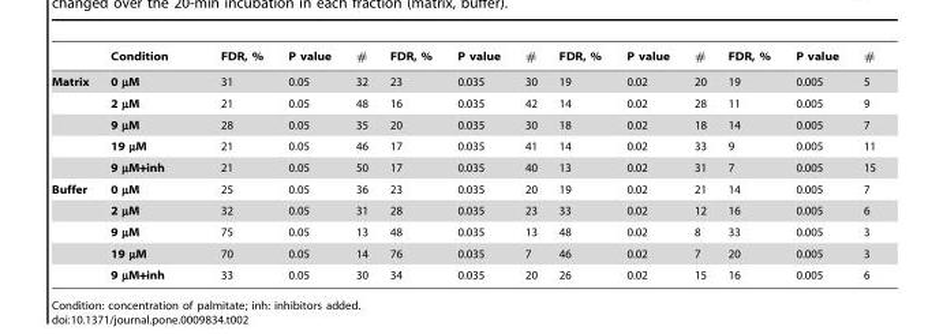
<table><thead><tr><td></td><td>Condition</td><td>FDR, %</td><td>P value</td><td>#</td><td>FDR, %</td><td>P value</td><td>#</td><td>FDR, %</td><td>P value</td><td>#</td><td>FDR, %</td><td>P value</td><td>#</td></tr></thead><tbody><tr><td rowspan="5">Matrix</td><td>0 µM</td><td>31</td><td>0.05</td><td>32</td><td>23</td><td>0.035</td><td>30</td><td>19</td><td>0.02</td><td>20</td><td>19</td><td>0.005</td><td>5</td></tr><tr><td>2 µM</td><td>21</td><td>0.05</td><td>48</td><td>16</td><td>0.035</td><td>42</td><td>14</td><td>0.02</td><td>28</td><td>11</td><td>0.005</td><td>9</td></tr><tr><td>9 µM</td><td>28</td><td>0.05</td><td>35</td><td>20</td><td>0.035</td><td>30</td><td>18</td><td>0.02</td><td>18</td><td>14</td><td>0.005</td><td>7</td></tr><tr><td>19 µM</td><td>21</td><td>0.05</td><td>46</td><td>17</td><td>0.035</td><td>41</td><td>14</td><td>0.02</td><td>33</td><td>9</td><td>0.005</td><td>11</td></tr><tr><td>9 µM+inh</td><td>21</td><td>0.05</td><td>50</td><td>17</td><td>0.035</td><td>40</td><td>13</td><td>0.02</td><td>31</td><td>7</td><td>0.005</td><td>15</td></tr><tr><td rowspan="5">Buffer</td><td>0 µM</td><td>25</td><td>0.05</td><td>36</td><td>23</td><td>0.035</td><td>20</td><td>19</td><td>0.02</td><td>21</td><td>14</td><td>0.005</td><td>7</td></tr><tr><td>2 µM</td><td>32</td><td>0.05</td><td>31</td><td>28</td><td>0.035</td><td>23</td><td>33</td><td>0.02</td><td>12</td><td>16</td><td>0.005</td><td>6</td></tr><tr><td>9 µM</td><td>75</td><td>0.05</td><td>13</td><td>48</td><td>0.035</td><td>13</td><td>48</td><td>0.02</td><td>8</td><td>33</td><td>0.005</td><td>3</td></tr><tr><td>19 µM</td><td>70</td><td>0.05</td><td>14</td><td>76</td><td>0.035</td><td>7</td><td>46</td><td>0.02</td><td>7</td><td>20</td><td>0.005</td><td>3</td></tr><tr><td>9 µM+inh</td><td>33</td><td>0.05</td><td>30</td><td>34</td><td>0.035</td><td>20</td><td>26</td><td>0.02</td><td>15</td><td>16</td><td>0.005</td><td>6</td></tr></tbody></table>